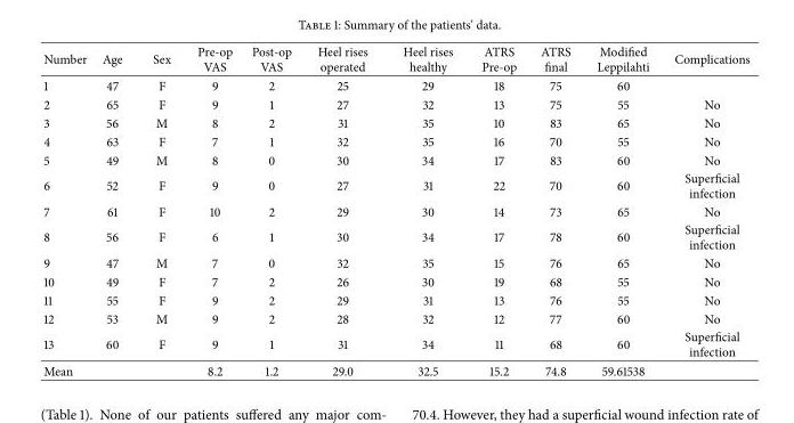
<table><thead><tr><td>Number</td><td>Age</td><td>Sex</td><td>Pre-op VAS</td><td>Post-op VAS</td><td>Heel rises operated</td><td>Heel rises healthy</td><td>ATRS Pre-op</td><td>ATRS final</td><td>Modified Leppilahti</td><td>Complications</td></tr></thead><tbody><tr><td>1</td><td>47</td><td>F</td><td>9</td><td>2</td><td>25</td><td>29</td><td>18</td><td>75</td><td>60</td><td></td></tr><tr><td>2</td><td>65</td><td>F</td><td>9</td><td>1</td><td>27</td><td>32</td><td>13</td><td>75</td><td>55</td><td>No</td></tr><tr><td>3</td><td>56</td><td>M</td><td>8</td><td>2</td><td>31</td><td>35</td><td>10</td><td>83</td><td>65</td><td>No</td></tr><tr><td>4</td><td>63</td><td>F</td><td>7</td><td>1</td><td>32</td><td>35</td><td>16</td><td>70</td><td>55</td><td>No</td></tr><tr><td>5</td><td>49</td><td>M</td><td>8</td><td>0</td><td>30</td><td>34</td><td>17</td><td>83</td><td>60</td><td>No</td></tr><tr><td>6</td><td>52</td><td>F</td><td>9</td><td>0</td><td>27</td><td>31</td><td>22</td><td>70</td><td>60</td><td>Superficial infection</td></tr><tr><td>7</td><td>61</td><td>F</td><td>10</td><td>2</td><td>29</td><td>30</td><td>14</td><td>73</td><td>65</td><td>No</td></tr><tr><td>8</td><td>56</td><td>F</td><td>6</td><td>1</td><td>30</td><td>34</td><td>17</td><td>78</td><td>60</td><td>Superficial infection</td></tr><tr><td>9</td><td>47</td><td>M</td><td>7</td><td>0</td><td>32</td><td>35</td><td>15</td><td>76</td><td>65</td><td>No</td></tr><tr><td>10</td><td>49</td><td>F</td><td>7</td><td>2</td><td>26</td><td>30</td><td>19</td><td>68</td><td>55</td><td>No</td></tr><tr><td>11</td><td>55</td><td>F</td><td>9</td><td>2</td><td>29</td><td>31</td><td>13</td><td>76</td><td>55</td><td>No</td></tr><tr><td>12</td><td>53</td><td>M</td><td>9</td><td>2</td><td>28</td><td>32</td><td>12</td><td>77</td><td>60</td><td>No</td></tr><tr><td>13</td><td>60</td><td>F</td><td>9</td><td>1</td><td>31</td><td>34</td><td>11</td><td>68</td><td>60</td><td>Superficial infection</td></tr><tr><td>Mean</td><td></td><td></td><td>8.2</td><td>1.2</td><td>29.0</td><td>32.5</td><td>15.2</td><td>74.8</td><td>59.61538</td><td></td></tr></tbody></table>